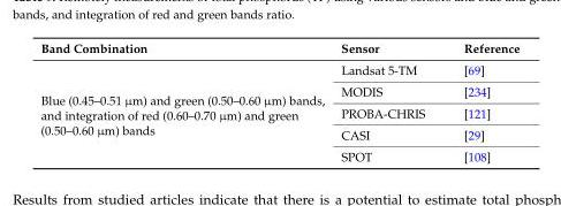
<table><thead><tr><td>Band Combination</td><td>Sensor</td><td>Reference</td></tr></thead><tbody><tr><td rowspan="5">Blue (0.45–0.51 µm) and green (0.50–0.60 µm) bands, and integration of red (0.60–0.70 µm) and green (0.50–0.60 µm) bands</td><td>Landsat 5-TM</td><td>[69]</td></tr><tr><td>MODIS</td><td>[234]</td></tr><tr><td>PROBA-CHRIS</td><td>[121]</td></tr><tr><td>CASI</td><td>[29]</td></tr><tr><td>SPOT</td><td>[108]</td></tr></tbody></table>